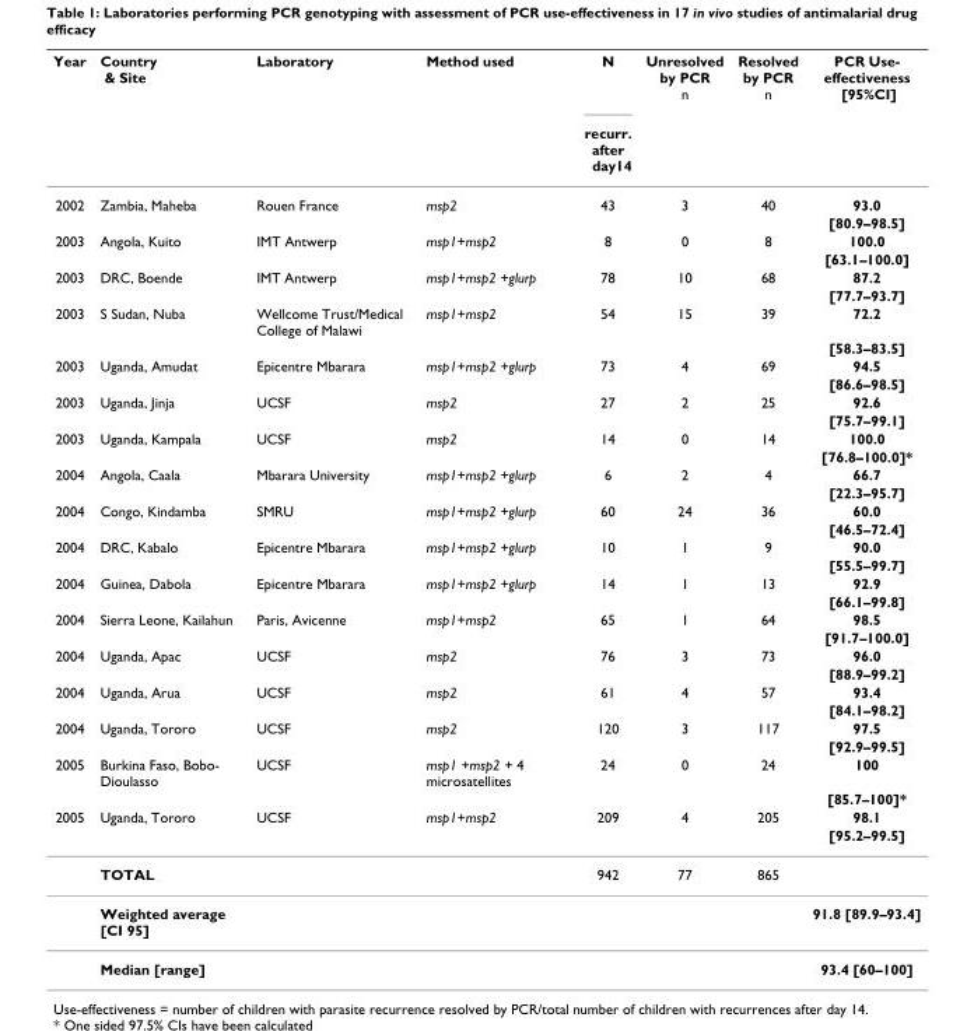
<table><thead><tr><td rowspan="2">Year</td><td rowspan="2">Country &amp; Site</td><td rowspan="2">Laboratory</td><td rowspan="2">Method used</td><td rowspan="2">N recurr. after day14</td><td rowspan="2">Unresolved by PCR n</td><td rowspan="2">Resolved by PCR n</td><td rowspan="2">PCR Use- effectiveness [95%CI]</td></tr><tr></tr></thead><tbody><tr><td rowspan="2">2002</td><td>Zambia, Maheba</td><td>Rouen France</td><td>msp2</td><td>43</td><td>3</td><td>40</td><td>93.0</td></tr><tr><td></td><td></td><td></td><td></td><td></td><td></td><td>[80.9–98.5]</td></tr><tr><td rowspan="2">2003</td><td>Angola, Kuito</td><td>IMT Antwerp</td><td>msp1+msp2</td><td>8</td><td>0</td><td>8</td><td>100.0</td></tr><tr><td></td><td></td><td></td><td></td><td></td><td></td><td>[63.1–100.0]</td></tr><tr><td rowspan="2">2003</td><td>DRC, Boende</td><td>IMT Antwerp</td><td>msp1+msp2 +glurp</td><td>78</td><td>10</td><td>68</td><td>87.2</td></tr><tr><td></td><td></td><td></td><td></td><td></td><td></td><td>[77.7–93.7]</td></tr><tr><td rowspan="2">2003</td><td>S Sudan, Nuba</td><td>Wellcome Trust/Medical College of Malawi</td><td>msp1+msp2</td><td>54</td><td>15</td><td>39</td><td>72.2</td></tr><tr><td></td><td></td><td></td><td></td><td></td><td></td><td>[58.3–83.5]</td></tr><tr><td rowspan="2">2003</td><td>Uganda, Amudat</td><td>Epicentre Mbarara</td><td>msp1+msp2 +glurp</td><td>73</td><td>4</td><td>69</td><td>94.5</td></tr><tr><td></td><td></td><td></td><td></td><td></td><td></td><td>[86.6–98.5]</td></tr><tr><td rowspan="2">2003</td><td>Uganda, Jinja</td><td>UCSF</td><td>msp2</td><td>27</td><td>2</td><td>25</td><td>92.6</td></tr><tr><td></td><td></td><td></td><td></td><td></td><td></td><td>[75.7–99.1]</td></tr><tr><td rowspan="2">2003</td><td>Uganda, Kampala</td><td>UCSF</td><td>msp2</td><td>14</td><td>0</td><td>14</td><td>100.0</td></tr><tr><td></td><td></td><td></td><td></td><td></td><td></td><td>[76.8–100.0]*</td></tr><tr><td rowspan="2">2004</td><td>Angola, Caala</td><td>Mbarara University</td><td>msp1+msp2 +glurp</td><td>6</td><td>2</td><td>4</td><td>66.7</td></tr><tr><td></td><td></td><td></td><td></td><td></td><td></td><td>[22.3–95.7]</td></tr><tr><td rowspan="2">2004</td><td>Congo, Kindamba</td><td>SMRU</td><td>msp1+msp2 +glurp</td><td>60</td><td>24</td><td>36</td><td>60.0</td></tr><tr><td></td><td></td><td></td><td></td><td></td><td></td><td>[46.5–72.4]</td></tr><tr><td rowspan="2">2004</td><td>DRC, Kabalo</td><td>Epicentre Mbarara</td><td>msp1+msp2 +glurp</td><td>10</td><td>1</td><td>9</td><td>90.0</td></tr><tr><td></td><td></td><td></td><td></td><td></td><td></td><td>[55.5–99.7]</td></tr><tr><td rowspan="2">2004</td><td>Guinea, Dabola</td><td>Epicentre Mbarara</td><td>msp1+msp2 +glurp</td><td>14</td><td>1</td><td>13</td><td>92.9</td></tr><tr><td></td><td></td><td></td><td></td><td></td><td></td><td>[66.1–99.8]</td></tr><tr><td rowspan="2">2004</td><td>Sierra Leone, Kailahun</td><td>Paris, Avicenne</td><td>msp1+msp2</td><td>65</td><td>1</td><td>64</td><td>98.5</td></tr><tr><td></td><td></td><td></td><td></td><td></td><td></td><td>[91.7–100.0]</td></tr><tr><td rowspan="2">2004</td><td>Uganda, Apac</td><td>UCSF</td><td>msp2</td><td>76</td><td>3</td><td>73</td><td>96.0</td></tr><tr><td></td><td></td><td></td><td></td><td></td><td></td><td>[88.9–99.2]</td></tr><tr><td rowspan="2">2004</td><td>Uganda, Arua</td><td>UCSF</td><td>msp2</td><td>61</td><td>4</td><td>57</td><td>93.4</td></tr><tr><td></td><td></td><td></td><td></td><td></td><td></td><td>[84.1–98.2]</td></tr><tr><td rowspan="2">2004</td><td>Uganda, Tororo</td><td>UCSF</td><td>msp2</td><td>120</td><td>3</td><td>117</td><td>97.5</td></tr><tr><td></td><td></td><td></td><td></td><td></td><td></td><td>[92.9–99.5]</td></tr><tr><td rowspan="2">2005</td><td>Burkina Faso, Bobo- Dioulasso</td><td>UCSF</td><td>msp1 +msp2 + 4 microsatellites</td><td>24</td><td>0</td><td>24</td><td>100</td></tr><tr><td></td><td></td><td></td><td></td><td></td><td></td><td>[85.7–100]*</td></tr><tr><td rowspan="5">2005</td><td>Uganda, Tororo</td><td>UCSF</td><td>msp1+msp2</td><td>209</td><td>4</td><td>205</td><td>98.1</td></tr><tr><td></td><td></td><td></td><td></td><td></td><td></td><td>[95.2–99.5]</td></tr><tr><td>TOTAL</td><td></td><td></td><td>942</td><td>77</td><td>865</td><td></td></tr><tr><td>Weighted average [CI 95]</td><td></td><td></td><td></td><td></td><td></td><td>91.8 [89.9–93.4]</td></tr><tr><td>Median [range]</td><td></td><td></td><td></td><td></td><td></td><td>93.4 [60–100]</td></tr></tbody></table>